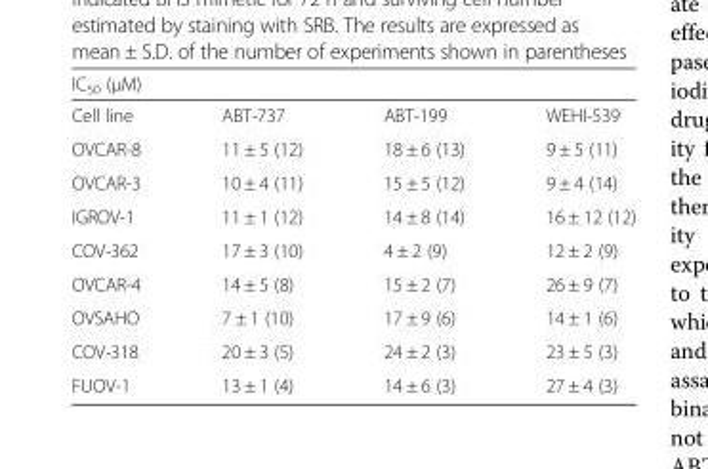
<table><thead><tr><td colspan="4">IC<sub>50</sub> (μM)</td></tr><tr><td>Cell line</td><td>ABT-737</td><td>ABT-199</td><td>WEHI-539</td></tr></thead><tbody><tr><td>OVCAR-8</td><td>11 ± 5 (12)</td><td>18 ± 6 (13)</td><td>9 ± 5 (11)</td></tr><tr><td>OVCAR-3</td><td>10 ± 4 (11)</td><td>15 ± 5 (12)</td><td>9 ± 4 (14)</td></tr><tr><td>IGROV-1</td><td>11 ± 1 (12)</td><td>14 ± 8 (14)</td><td>16 ± 12 (12)</td></tr><tr><td>COV-362</td><td>17 ± 3 (10)</td><td>4 ± 2 (9)</td><td>12 ± 2 (9)</td></tr><tr><td>OVCAR-4</td><td>14 ± 5 (8)</td><td>15 ± 2 (7)</td><td>26 ± 9 (7)</td></tr><tr><td>OVSAHO</td><td>7 ± 1 (10)</td><td>17 ± 9 (6)</td><td>14 ± 1 (6)</td></tr><tr><td>COV-318</td><td>20 ± 3 (5)</td><td>24 ± 2 (3)</td><td>23 ± 5 (3)</td></tr><tr><td>FUOV-1</td><td>13 ± 1 (4)</td><td>14 ± 6 (3)</td><td>27 ± 4 (3)</td></tr></tbody></table>